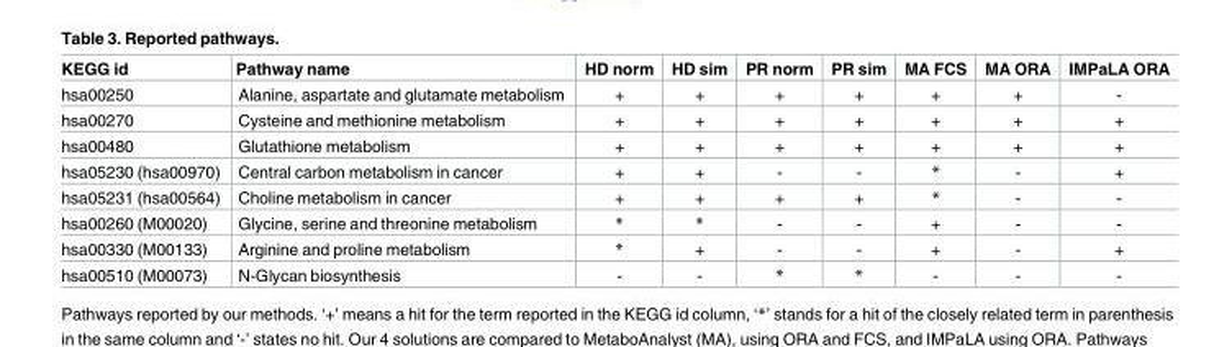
<table><thead><tr><td>KEGG id</td><td>Pathway name</td><td>HD norm</td><td>HD sim</td><td>PR norm</td><td>PR sim</td><td>MA FCS</td><td>MA ORA</td><td>IMPaLA ORA</td></tr></thead><tbody><tr><td>hsa00250</td><td>Alanine, aspartate and glutamate metabolism</td><td>+</td><td>+</td><td>+</td><td>+</td><td>+</td><td>+</td><td>-</td></tr><tr><td>hsa00270</td><td>Cysteine and methionine metabolism</td><td>+</td><td>+</td><td>+</td><td>+</td><td>+</td><td>+</td><td>+</td></tr><tr><td>hsa00480</td><td>Glutathione metabolism</td><td>+</td><td>+</td><td>+</td><td>+</td><td>+</td><td>+</td><td>+</td></tr><tr><td>hsa05230 (hsa00970)</td><td>Central carbon metabolism in cancer</td><td>+</td><td>+</td><td>-</td><td>-</td><td>*</td><td>-</td><td>+</td></tr><tr><td>hsa05231 (hsa00564)</td><td>Choline metabolism in cancer</td><td>+</td><td>+</td><td>+</td><td>+</td><td>*</td><td>-</td><td>-</td></tr><tr><td>hsa00260 (M00020)</td><td>Glycine, serine and threonine metabolism</td><td>*</td><td>*</td><td>-</td><td>-</td><td>+</td><td>-</td><td>-</td></tr><tr><td>hsa00330 (M00133)</td><td>Arginine and proline metabolism</td><td>*</td><td>+</td><td>-</td><td>-</td><td>+</td><td>-</td><td>+</td></tr><tr><td>hsa00510 (M00073)</td><td>N-Glycan biosynthesis</td><td>-</td><td>-</td><td>*</td><td>*</td><td>-</td><td>-</td><td>-</td></tr></tbody></table>